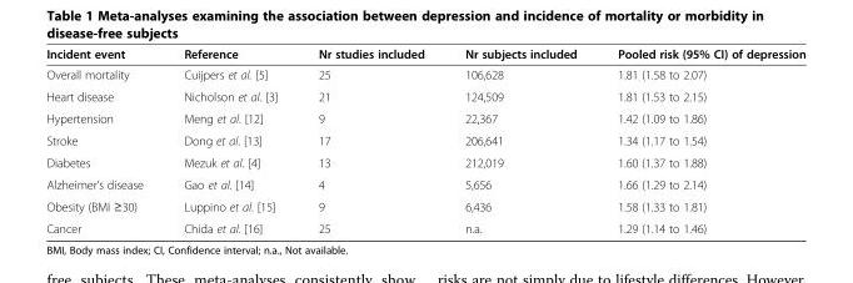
<table><thead><tr><td>Incident event</td><td>Reference</td><td>Nr studies included</td><td>Nr subjects included</td><td>Pooled risk (95% CI) of depression</td></tr></thead><tbody><tr><td>Overall mortality</td><td>Cuijpers et al. [5]</td><td>25</td><td>106,628</td><td>1.81 (1.58 to 2.07)</td></tr><tr><td>Heart disease</td><td>Nicholson et al. [3]</td><td>21</td><td>124,509</td><td>1.81 (1.53 to 2.15)</td></tr><tr><td>Hypertension</td><td>Meng et al. [12]</td><td>9</td><td>22,367</td><td>1.42 (1.09 to 1.86)</td></tr><tr><td>Stroke</td><td>Dong et al. [13]</td><td>17</td><td>206,641</td><td>1.34 (1.17 to 1.54)</td></tr><tr><td>Diabetes</td><td>Mezuk et al. [4]</td><td>13</td><td>212,019</td><td>1.60 (1.37 to 1.88)</td></tr><tr><td>Alzheimer’s disease</td><td>Gao et al. [14]</td><td>4</td><td>5,656</td><td>1.66 (1.29 to 2.14)</td></tr><tr><td>Obesity (BMI ≥30)</td><td>Luppino et al. [15]</td><td>9</td><td>6,436</td><td>1.58 (1.33 to 1.81)</td></tr><tr><td>Cancer</td><td>Chida et al. [16]</td><td>25</td><td>n.a.</td><td>1.29 (1.14 to 1.46)</td></tr></tbody></table>